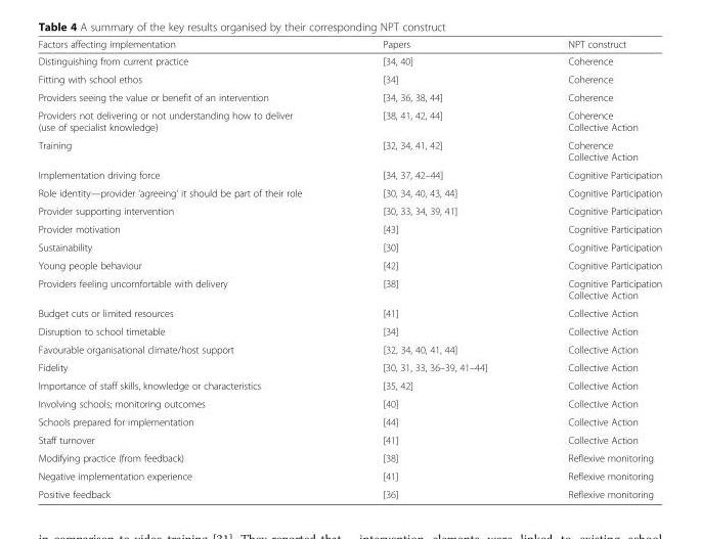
<table><thead><tr><td>Factors affecting implementation</td><td>Papers</td><td>NPT construct</td></tr></thead><tbody><tr><td>Distinguishing from current practice</td><td>[34, 40]</td><td>Coherence</td></tr><tr><td>Fitting with school ethos</td><td>[34]</td><td>Coherence</td></tr><tr><td>Providers seeing the value or benefit of an intervention</td><td>[34, 36, 38, 44]</td><td>Coherence</td></tr><tr><td>Providers not delivering or not understanding how to deliver (use of specialist knowledge)</td><td>[38, 41, 42, 44]</td><td>Coherence Collective Action</td></tr><tr><td>Training</td><td>[32, 34, 41, 42]</td><td>Coherence Collective Action</td></tr><tr><td>Implementation driving force</td><td>[34, 37, 42–44]</td><td>Cognitive Participation</td></tr><tr><td>Role identity—provider ‘agreeing’ it should be part of their role</td><td>[30, 34, 40, 43, 44]</td><td>Cognitive Participation</td></tr><tr><td>Provider supporting intervention</td><td>[30, 33, 34, 39, 41]</td><td>Cognitive Participation</td></tr><tr><td>Provider motivation</td><td>[43]</td><td>Cognitive Participation</td></tr><tr><td>Sustainability</td><td>[30]</td><td>Cognitive Participation</td></tr><tr><td>Young people behaviour</td><td>[42]</td><td>Cognitive Participation</td></tr><tr><td>Providers feeling uncomfortable with delivery</td><td>[38]</td><td>Cognitive Participation Collective Action</td></tr><tr><td>Budget cuts or limited resources</td><td>[41]</td><td>Collective Action</td></tr><tr><td>Disruption to school timetable</td><td>[34]</td><td>Collective Action</td></tr><tr><td>Favourable organisational climate/host support</td><td>[32, 34, 40, 41, 44]</td><td>Collective Action</td></tr><tr><td>Fidelity</td><td>[30, 31, 33, 36–39, 41–44]</td><td>Collective Action</td></tr><tr><td>Importance of staff skills, knowledge or characteristics</td><td>[35, 42]</td><td>Collective Action</td></tr><tr><td>Involving schools; monitoring outcomes</td><td>[40]</td><td>Collective Action</td></tr><tr><td>Schools prepared for implementation</td><td>[44]</td><td>Collective Action</td></tr><tr><td>Staff turnover</td><td>[41]</td><td>Collective Action</td></tr><tr><td>Modifying practice (from feedback)</td><td>[38]</td><td>Reflexive monitoring</td></tr><tr><td>Negative implementation experience</td><td>[41]</td><td>Reflexive monitoring</td></tr><tr><td>Positive feedback</td><td>[36]</td><td>Reflexive monitoring</td></tr></tbody></table>